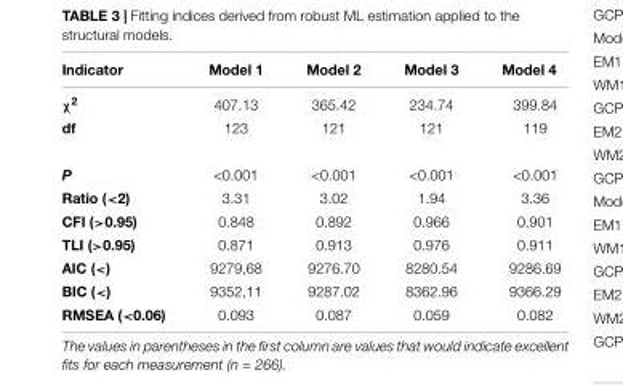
<table><thead><tr><td>Indicator</td><td>Model 1</td><td>Model 2</td><td>Model 3</td><td>Model 4</td></tr></thead><tbody><tr><td>χ<sup>2</sup></td><td>407.13</td><td>365.42</td><td>234.74</td><td>399.84</td></tr><tr><td>df</td><td>123</td><td>121</td><td>121</td><td>119</td></tr><tr><td>P</td><td>&lt;0.001</td><td>&lt;0.001</td><td>&lt;0.001</td><td>&lt;0.001</td></tr><tr><td>Ratio (&lt;2)</td><td>3.31</td><td>3.02</td><td>1.94</td><td>3.36</td></tr><tr><td>CFI (&gt;0.95)</td><td>0.848</td><td>0.892</td><td>0.966</td><td>0.901</td></tr><tr><td>TLI (&gt;0.95)</td><td>0.871</td><td>0.913</td><td>0.976</td><td>0.911</td></tr><tr><td>AIC (&lt;)</td><td>9279,68</td><td>9276.70</td><td>8280.54</td><td>9286.69</td></tr><tr><td>BIC (&lt;)</td><td>9352,11</td><td>9287.02</td><td>8362.96</td><td>9366.29</td></tr><tr><td>RMSEA (&lt;0.06)</td><td>0.093</td><td>0.087</td><td>0.059</td><td>0.082</td></tr></tbody></table>